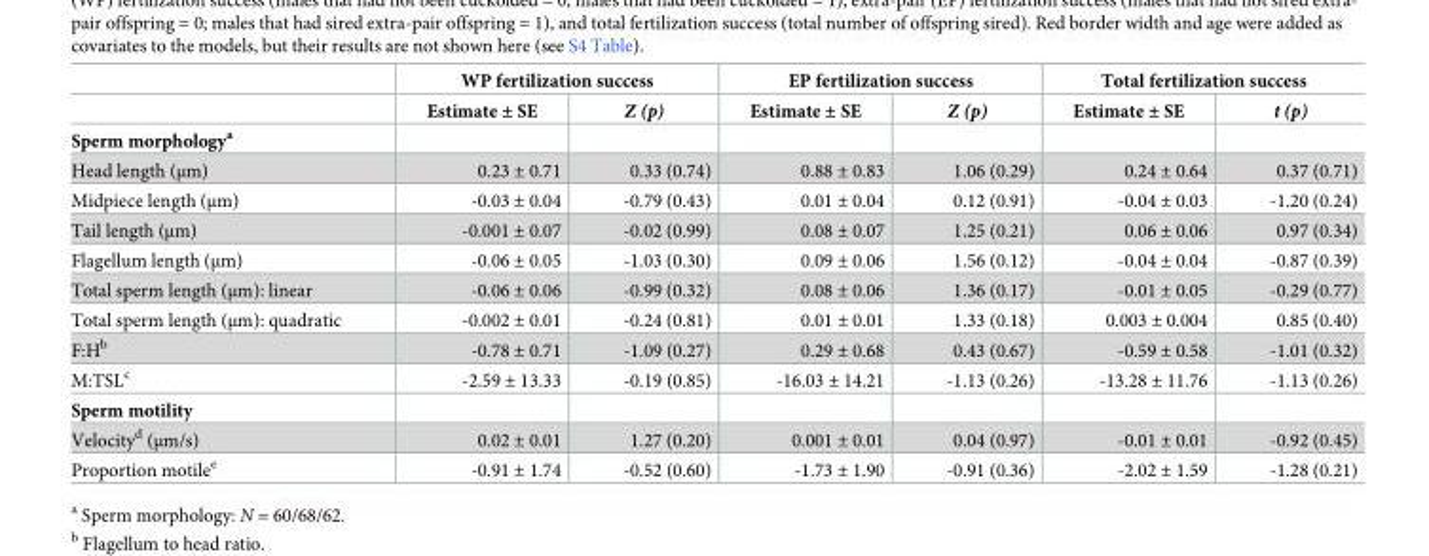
<table><thead><tr><td rowspan="2"></td><td colspan="2">WP fertilization success</td><td colspan="2">EP fertilization success</td><td colspan="2">Total fertilization success</td></tr><tr><td>Estimate ± SE</td><td>Z (p)</td><td>Estimate ± SE</td><td>Z (p)</td><td>Estimate ± SE</td><td>t (p)</td></tr></thead><tbody><tr><td colspan="7">Sperm morphology<sup>a</sup></td></tr><tr><td>Head length (μm)</td><td>0.23 ± 0.71</td><td>0.33 (0.74)</td><td>0.88 ± 0.83</td><td>1.06 (0.29)</td><td>0.24 ± 0.64</td><td>0.37 (0.71)</td></tr><tr><td>Midpiece length (μm)</td><td>-0.03 ± 0.04</td><td>-0.79 (0.43)</td><td>0.01 ± 0.04</td><td>0.12 (0.91)</td><td>-0.04 ± 0.03</td><td>-1.20 (0.24)</td></tr><tr><td>Tail length (μm)</td><td>-0.001 ± 0.07</td><td>-0.02 (0.99)</td><td>0.08 ± 0.07</td><td>1.25 (0.21)</td><td>0.06 ± 0.06</td><td>0.97 (0.34)</td></tr><tr><td>Flagellum length (μm)</td><td>-0.06 ± 0.05</td><td>-1.03 (0.30)</td><td>0.09 ± 0.06</td><td>1.56 (0.12)</td><td>-0.04 ± 0.04</td><td>-0.87 (0.39)</td></tr><tr><td>Total sperm length (μm): linear</td><td>-0.06 ± 0.06</td><td>-0.99 (0.32)</td><td>0.08 ± 0.06</td><td>1.36 (0.17)</td><td>-0.01 ± 0.05</td><td>-0.29 (0.77)</td></tr><tr><td>Total sperm length (μm): quadratic</td><td>-0.002 ± 0.01</td><td>-0.24 (0.81)</td><td>0.01 ± 0.01</td><td>1.33 (0.18)</td><td>0.003 ± 0.004</td><td>0.85 (0.40)</td></tr><tr><td>F:H<sup>b</sup></td><td>-0.78 ± 0.71</td><td>-1.09 (0.27)</td><td>0.29 ± 0.68</td><td>0.43 (0.67)</td><td>-0.59 ± 0.58</td><td>-1.01 (0.32)</td></tr><tr><td>M:TSL<sup>c</sup></td><td>-2.59 ± 13.33</td><td>-0.19 (0.85)</td><td>-16.03 ± 14.21</td><td>-1.13 (0.26)</td><td>-13.28 ± 11.76</td><td>-1.13 (0.26)</td></tr><tr><td colspan="7">Sperm motility</td></tr><tr><td>Velocity<sup>d</sup> (μm/s)</td><td>0.02 ± 0.01</td><td>1.27 (0.20)</td><td>0.001 ± 0.01</td><td>0.04 (0.97)</td><td>-0.01 ± 0.01</td><td>-0.92 (0.45)</td></tr><tr><td>Proportion motile<sup>e</sup></td><td>-0.91 ± 1.74</td><td>-0.52 (0.60)</td><td>-1.73 ± 1.90</td><td>-0.91 (0.36)</td><td>-2.02 ± 1.59</td><td>-1.28 (0.21)</td></tr></tbody></table>